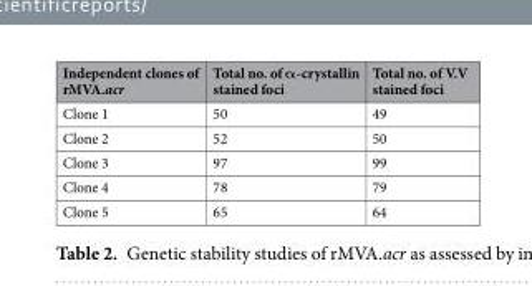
<table><thead><tr><td>Independent clones of rMVA.acr</td><td>Total no. of α-crystallin stained foci</td><td>Total no. of V.V stained foci</td></tr></thead><tbody><tr><td>Clone 1</td><td>50</td><td>49</td></tr><tr><td>Clone 2</td><td>52</td><td>50</td></tr><tr><td>Clone 3</td><td>97</td><td>99</td></tr><tr><td>Clone 4</td><td>78</td><td>79</td></tr><tr><td>Clone 5</td><td>65</td><td>64</td></tr></tbody></table>